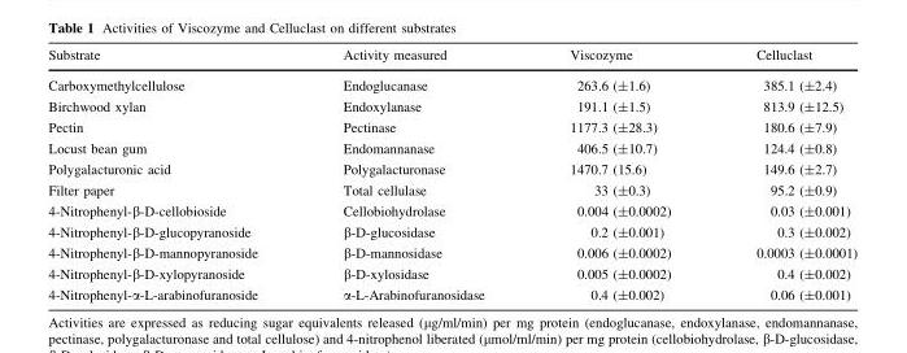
<table><thead><tr><td>Substrate</td><td>Activity measured</td><td>Viscozyme</td><td>Celluclast</td></tr></thead><tbody><tr><td>Carboxymethylcellulose</td><td>Endoglucanase</td><td>263.6 (±1.6)</td><td>385.1 (±2.4)</td></tr><tr><td>Birchwood xylan</td><td>Endoxylanase</td><td>191.1 (±1.5)</td><td>813.9 (±12.5)</td></tr><tr><td>Pectin</td><td>Pectinase</td><td>1177.3 (±28.3)</td><td>180.6 (±7.9)</td></tr><tr><td>Locust bean gum</td><td>Endomannanase</td><td>406.5 (±10.7)</td><td>124.4 (±0.8)</td></tr><tr><td>Polygalacturonic acid</td><td>Polygalacturonase</td><td>1470.7 (15.6)</td><td>149.6 (±2.7)</td></tr><tr><td>Filter paper</td><td>Total cellulase</td><td>33 (±0.3)</td><td>95.2 (±0.9)</td></tr><tr><td>4-Nitrophenyl-β-D-cellobioside</td><td>Cellobiohydrolase</td><td>0.004 (±0.0002)</td><td>0.03 (±0.001)</td></tr><tr><td>4-Nitrophenyl-β-D-glucopyranoside</td><td>β-D-glucosidase</td><td>0.2 (±0.001)</td><td>0.3 (±0.002)</td></tr><tr><td>4-Nitrophenyl-β-D-mannopyranoside</td><td>β-D-mannosidase</td><td>0.006 (±0.0002)</td><td>0.0003 (±0.0001)</td></tr><tr><td>4-Nitrophenyl-β-D-xylopyranoside</td><td>β-D-xylosidase</td><td>0.005 (±0.0002)</td><td>0.4 (±0.002)</td></tr><tr><td>4-Nitrophenyl-α-L-arabinofuranoside</td><td>α-L-Arabinofuranosidase</td><td>0.4 (±0.002)</td><td>0.06 (±0.001)</td></tr></tbody></table>